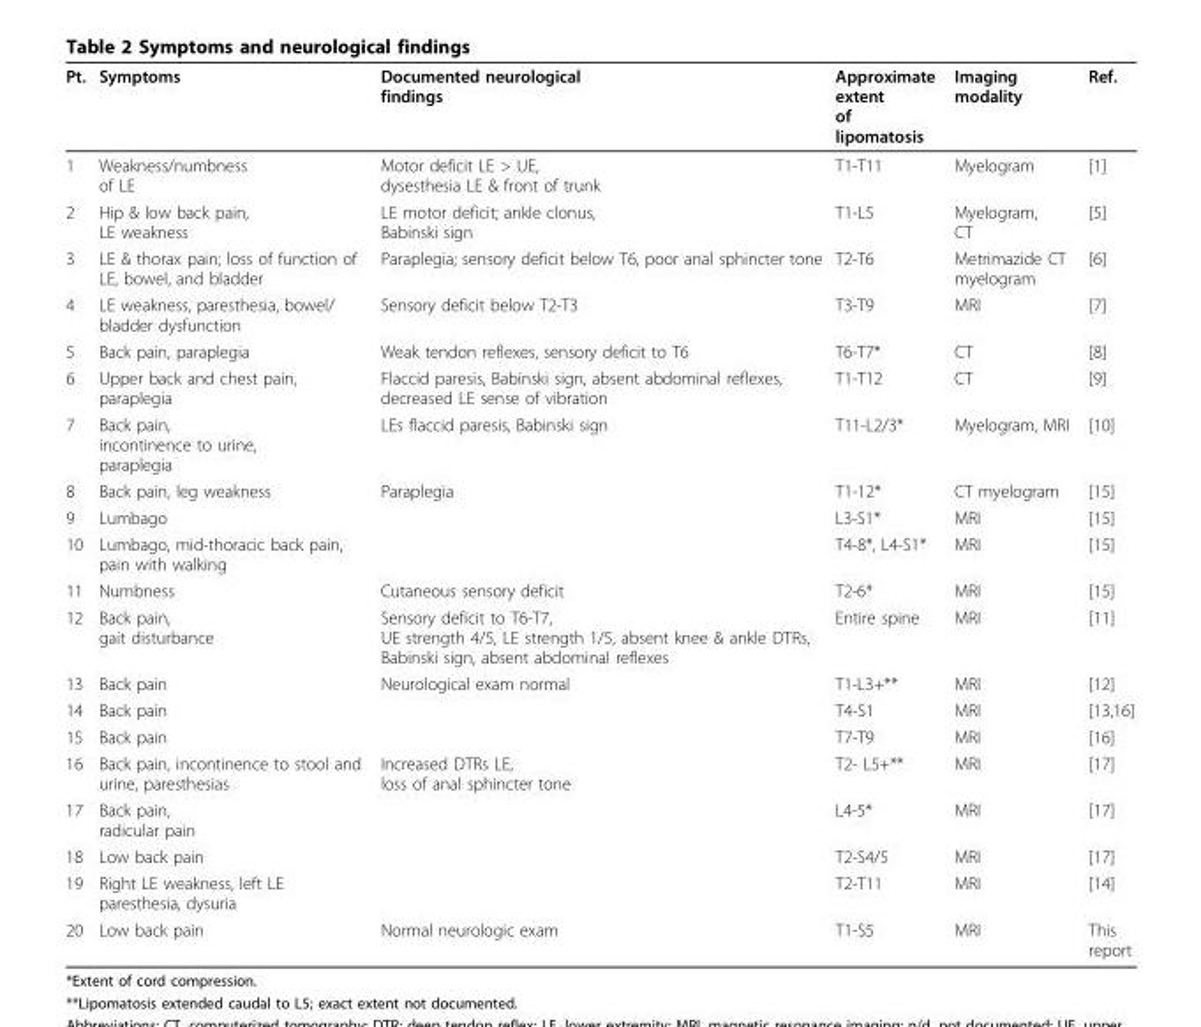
<table><thead><tr><td>Pt.</td><td>Symptoms</td><td>Documented neurological findings</td><td>Approximate extent of lipomatosis</td><td>Imaging modality</td><td>Ref.</td></tr></thead><tbody><tr><td>1</td><td>Weakness/numbness of LE</td><td>Motor deficit LE &gt; UE, dysesthesia LE &amp; front of trunk</td><td>T1-T11</td><td>Myelogram</td><td>[1]</td></tr><tr><td>2</td><td>Hip &amp; low back pain, LE weakness</td><td>LE motor deficit; ankle clonus, Babinski sign</td><td>T1-L5</td><td>Myelogram, CT</td><td>[5]</td></tr><tr><td>3</td><td>LE &amp; thorax pain; loss of function of LE, bowel, and bladder</td><td>Paraplegia; sensory deficit below T6, poor anal sphincter tone</td><td>T2-T6</td><td>Metrimazide CT myelogram</td><td>[6]</td></tr><tr><td>4</td><td>LE weakness, paresthesia, bowel/ bladder dysfunction</td><td>Sensory deficit below T2-T3</td><td>T3-T9</td><td>MRI</td><td>[7]</td></tr><tr><td>5</td><td>Back pain, paraplegia</td><td>Weak tendon reflexes, sensory deficit to T6</td><td>T6-T7*</td><td>CT</td><td>[8]</td></tr><tr><td>6</td><td>Upper back and chest pain, paraplegia</td><td>Flaccid paresis, Babinski sign, absent abdominal reflexes, decreased LE sense of vibration</td><td>T1-T12</td><td>CT</td><td>[9]</td></tr><tr><td>7</td><td>Back pain, incontinence to urine, paraplegia</td><td>LEs flaccid paresis, Babinski sign</td><td>T11-L2/3*</td><td>Myelogram, MRI</td><td>[10]</td></tr><tr><td>8</td><td>Back pain, leg weakness</td><td>Paraplegia</td><td>T1-12*</td><td>CT myelogram</td><td>[15]</td></tr><tr><td>9</td><td>Lumbago</td><td></td><td>L3-S1*</td><td>MRI</td><td>[15]</td></tr><tr><td>10</td><td>Lumbago, mid-thoracic back pain, pain with walking</td><td></td><td>T4-8*, L4-S1*</td><td>MRI</td><td>[15]</td></tr><tr><td>11</td><td>Numbness</td><td>Cutaneous sensory deficit</td><td>T2-6*</td><td>MRI</td><td>[15]</td></tr><tr><td>12</td><td>Back pain, gait disturbance</td><td>Sensory deficit to T6-T7, UE strength 4/5, LE strength 1/5, absent knee &amp; ankle DTRs, Babinski sign, absent abdominal reflexes</td><td>Entire spine</td><td>MRI</td><td>[11]</td></tr><tr><td>13</td><td>Back pain</td><td>Neurological exam normal</td><td>T1-L3+**</td><td>MRI</td><td>[12]</td></tr><tr><td>14</td><td>Back pain</td><td></td><td>T4-S1</td><td>MRI</td><td>[13,16]</td></tr><tr><td>15</td><td>Back pain</td><td></td><td>T7-T9</td><td>MRI</td><td>[16]</td></tr><tr><td>16</td><td>Back pain, incontinence to stool and urine, paresthesias</td><td>Increased DTRs LE, loss of anal sphincter tone</td><td>T2- L5+**</td><td>MRI</td><td>[17]</td></tr><tr><td>17</td><td>Back pain, radicular pain</td><td></td><td>L4-5*</td><td>MRI</td><td>[17]</td></tr><tr><td>18</td><td>Low back pain</td><td></td><td>T2-S4/5</td><td>MRI</td><td>[17]</td></tr><tr><td>19</td><td>Right LE weakness, left LE paresthesia, dysuria</td><td></td><td>T2-T11</td><td>MRI</td><td>[14]</td></tr><tr><td>20</td><td>Low back pain</td><td>Normal neurologic exam</td><td>T1-S5</td><td>MRI</td><td>This report</td></tr></tbody></table>